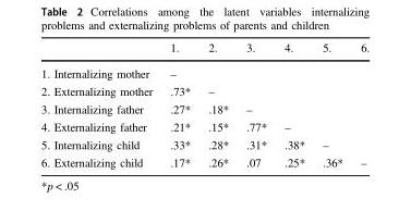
<table><thead><tr><td></td><td>1.</td><td>2.</td><td>3.</td><td>4.</td><td>5.</td><td>6.</td></tr></thead><tbody><tr><td>1. Internalizing mother</td><td>–</td><td></td><td></td><td></td><td></td><td></td></tr><tr><td>2. Externalizing mother</td><td>.73*</td><td>–</td><td></td><td></td><td></td><td></td></tr><tr><td>3. Internalizing father</td><td>.27*</td><td>.18*</td><td>–</td><td></td><td></td><td></td></tr><tr><td>4. Externalizing father</td><td>.21*</td><td>.15*</td><td>.77*</td><td>–</td><td></td><td></td></tr><tr><td>5. Internalizing child</td><td>.33*</td><td>.28*</td><td>.31*</td><td>.38*</td><td>–</td><td></td></tr><tr><td>6. Externalizing child</td><td>.17*</td><td>.26*</td><td>.07</td><td>.25*</td><td>.36*</td><td>–</td></tr></tbody></table>